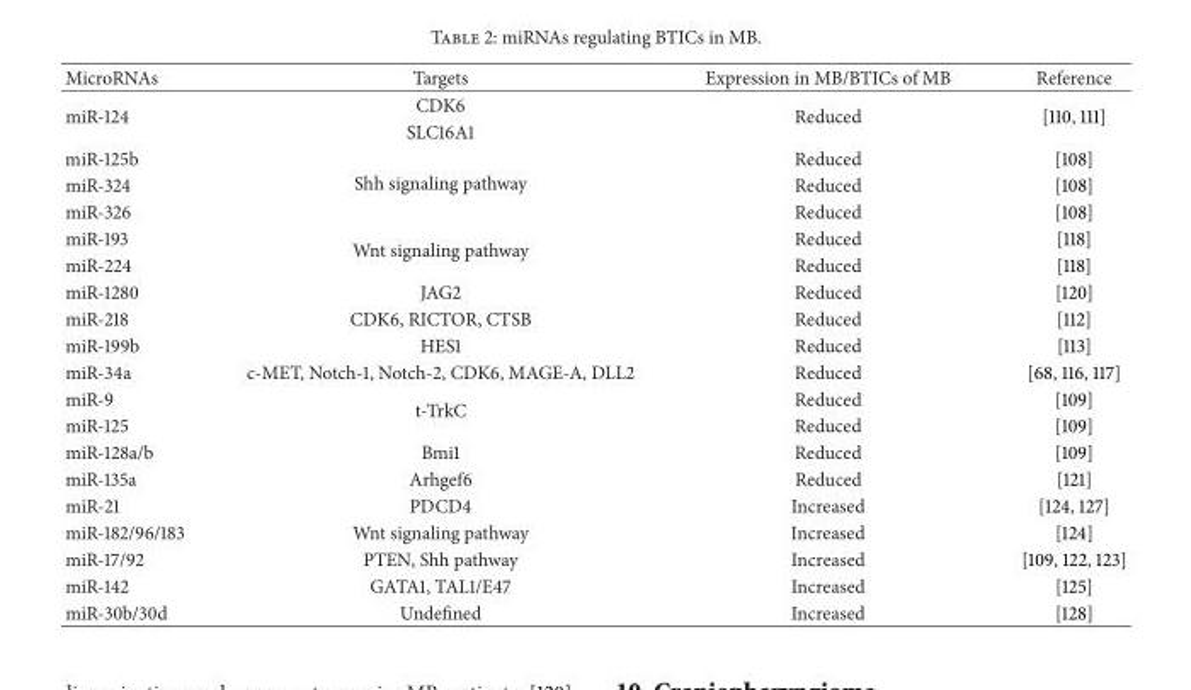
<table><thead><tr><td>MicroRNAs</td><td>Targets</td><td>Expression in MB/BTICs of MB</td><td>Reference</td></tr></thead><tbody><tr><td rowspan="2">miR-124</td><td>CDK6</td><td rowspan="2">Reduced</td><td rowspan="2">[110, 111]</td></tr><tr><td>SLC16A1</td></tr><tr><td>miR-125b</td><td rowspan="3">Shh signaling pathway</td><td>Reduced</td><td>[108]</td></tr><tr><td>miR-324</td><td>Reduced</td><td>[108]</td></tr><tr><td>miR-326</td><td>Reduced</td><td>[108]</td></tr><tr><td>miR-193</td><td rowspan="2">Wnt signaling pathway</td><td>Reduced</td><td>[118]</td></tr><tr><td>miR-224</td><td>Reduced</td><td>[118]</td></tr><tr><td>miR-1280</td><td>JAG2</td><td>Reduced</td><td>[120]</td></tr><tr><td>miR-218</td><td>CDK6, RICTOR, CTSB</td><td>Reduced</td><td>[112]</td></tr><tr><td>miR-199b</td><td>HES1</td><td>Reduced</td><td>[113]</td></tr><tr><td>miR-34a</td><td>c-MET, Notch-1, Notch-2, CDK6, MAGE-A, DLL2</td><td>Reduced</td><td>[68, 116, 117]</td></tr><tr><td>miR-9</td><td rowspan="2">t-TrkC</td><td>Reduced</td><td>[109]</td></tr><tr><td>miR-125</td><td>Reduced</td><td>[109]</td></tr><tr><td>miR-128a/b</td><td>Bmi1</td><td>Reduced</td><td>[109]</td></tr><tr><td>miR-135a</td><td>Arhgef6</td><td>Reduced</td><td>[121]</td></tr><tr><td>miR-21</td><td>PDCD4</td><td>Increased</td><td>[124, 127]</td></tr><tr><td>miR-182/96/183</td><td>Wnt signaling pathway</td><td>Increased</td><td>[124]</td></tr><tr><td>miR-17/92</td><td>PTEN, Shh pathway</td><td>Increased</td><td>[109, 122, 123]</td></tr><tr><td>miR-142</td><td>GATA1, TAL1/E47</td><td>Increased</td><td>[125]</td></tr><tr><td>miR-30b/30d</td><td>Undefined</td><td>Increased</td><td>[128]</td></tr></tbody></table>